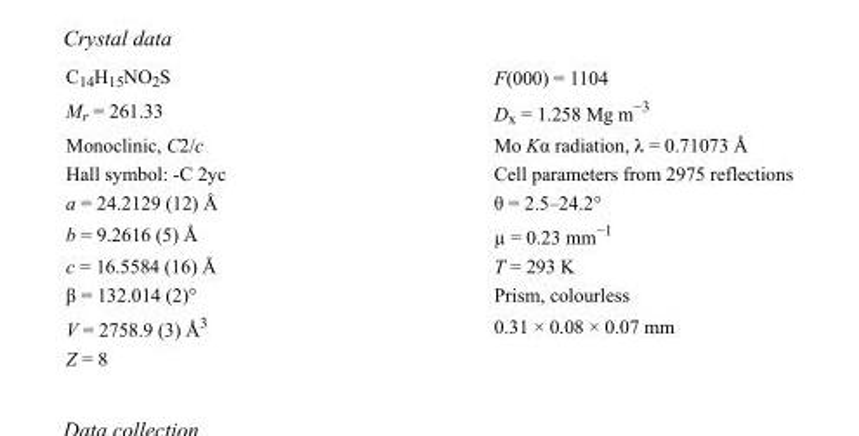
<table><tbody><tr><td>C<sub>14</sub>H<sub>15</sub>NO<sub>2</sub>S</td><td>F(000) = 1104</td></tr><tr><td>M<sub>r</sub> = 261.33</td><td>D<sub>x</sub> = 1.258 Mg m<sup>−3</sup></td></tr><tr><td>Monoclinic, C2/c</td><td>Mo Kα radiation, λ = 0.71073 Å</td></tr><tr><td>Hall symbol: -C 2yc</td><td>Cell parameters from 2975 reflections</td></tr><tr><td>a = 24.2129 (12) Å</td><td>θ = 2.5–24.2°</td></tr><tr><td>b = 9.2616 (5) Å</td><td>µ = 0.23 mm<sup>−1</sup></td></tr><tr><td>c = 16.5584 (16) Å</td><td>T = 293 K</td></tr><tr><td>β = 132.014 (2)°</td><td>Prism, colourless</td></tr><tr><td>V = 2758.9 (3) Å<sup>3</sup></td><td>0.31 × 0.08 × 0.07 mm</td></tr><tr><td>Z = 8</td><td></td></tr></tbody></table>